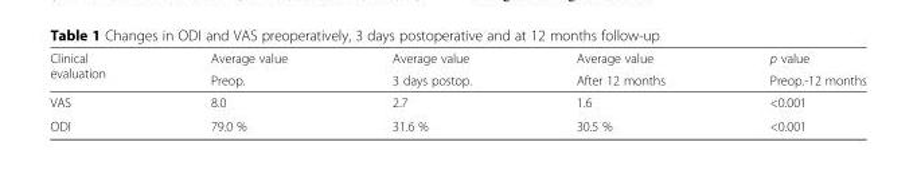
<table><thead><tr><td rowspan="2">Clinical evaluation</td><td rowspan="2">Average value Preop.</td><td rowspan="2">Average value 3 days postop.</td><td rowspan="2">Average value After 12 months</td><td rowspan="2">p value Preop.-12 months</td></tr><tr></tr></thead><tbody><tr><td>VAS</td><td>8.0</td><td>2.7</td><td>1.6</td><td>&lt;0.001</td></tr><tr><td>ODI</td><td>79.0 %</td><td>31.6 %</td><td>30.5 %</td><td>&lt;0.001</td></tr></tbody></table>